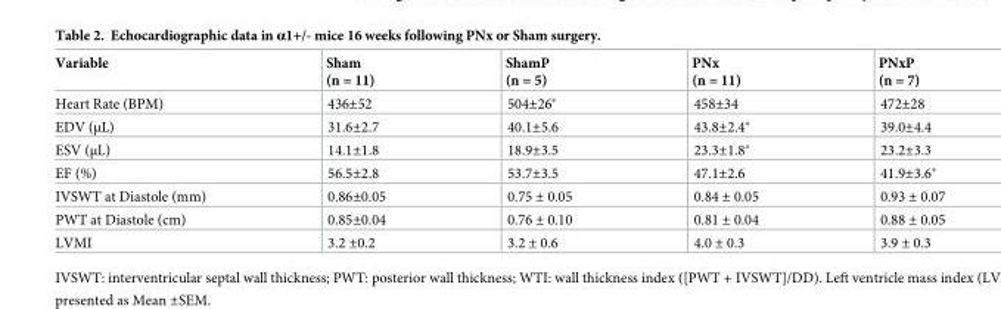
<table><thead><tr><td>Variable</td><td>Sham (n = 11)</td><td>ShamP (n = 5)</td><td>PNx (n = 11)</td><td>PNxP (n = 7)</td></tr></thead><tbody><tr><td>Heart Rate (BPM)</td><td>436±52</td><td>504±26*</td><td>458±34</td><td>472±28</td></tr><tr><td>EDV (μL)</td><td>31.6±2.7</td><td>40.1±5.6</td><td>43.8±2.4*</td><td>39.0±4.4</td></tr><tr><td>ESV (μL)</td><td>14.1±1.8</td><td>18.9±3.5</td><td>23.3±1.8*</td><td>23.2±3.3</td></tr><tr><td>EF (%)</td><td>56.5±2.8</td><td>53.7±3.5</td><td>47.1±2.6</td><td>41.9±3.6*</td></tr><tr><td>IVSWT at Diastole (mm)</td><td>0.86±0.05</td><td>0.75 ± 0.05</td><td>0.84 ± 0.05</td><td>0.93 ± 0.07</td></tr><tr><td>PWT at Diastole (cm)</td><td>0.85±0.04</td><td>0.76 ± 0.10</td><td>0.81 ± 0.04</td><td>0.88 ± 0.05</td></tr><tr><td>LVMI</td><td>3.2 ±0.2</td><td>3.2 ± 0.6</td><td>4.0 ± 0.3</td><td>3.9 ± 0.3</td></tr></tbody></table>